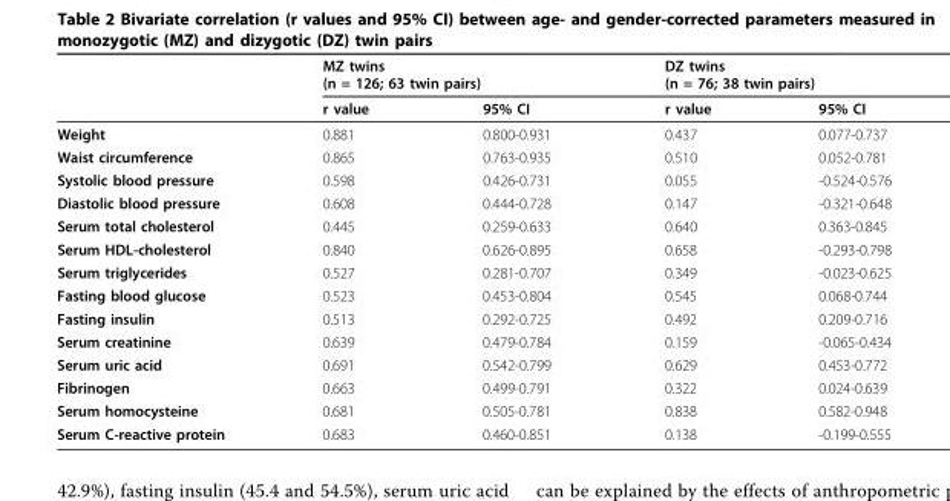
<table><thead><tr><td rowspan="2"></td><td colspan="2">MZ twins (n = 126; 63 twin pairs)</td><td colspan="2">DZ twins (n = 76; 38 twin pairs)</td></tr><tr><td>r value</td><td>95% CI</td><td>r value</td><td>95% CI</td></tr></thead><tbody><tr><td>Weight</td><td>0.881</td><td>0.800-0.931</td><td>0.437</td><td>0.077-0.737</td></tr><tr><td>Waist circumference</td><td>0.865</td><td>0.763-0.935</td><td>0.510</td><td>0.052-0.781</td></tr><tr><td>Systolic blood pressure</td><td>0.598</td><td>0.426-0.731</td><td>0.055</td><td>-0.524-0.576</td></tr><tr><td>Diastolic blood pressure</td><td>0.608</td><td>0.444-0.728</td><td>0.147</td><td>-0.321-0.648</td></tr><tr><td>Serum total cholesterol</td><td>0.445</td><td>0.259-0.633</td><td>0.640</td><td>0.363-0.845</td></tr><tr><td>Serum HDL-cholesterol</td><td>0.840</td><td>0.626-0.895</td><td>0.658</td><td>-0.293-0.798</td></tr><tr><td>Serum triglycerides</td><td>0.527</td><td>0.281-0.707</td><td>0.349</td><td>-0.023-0.625</td></tr><tr><td>Fasting blood glucose</td><td>0.523</td><td>0.453-0.804</td><td>0.545</td><td>0.068-0.744</td></tr><tr><td>Fasting insulin</td><td>0.513</td><td>0.292-0.725</td><td>0.492</td><td>0.209-0.716</td></tr><tr><td>Serum creatinine</td><td>0.639</td><td>0.479-0.784</td><td>0.159</td><td>-0.065-0.434</td></tr><tr><td>Serum uric acid</td><td>0.691</td><td>0.542-0.799</td><td>0.629</td><td>0.453-0.772</td></tr><tr><td>Fibrinogen</td><td>0.663</td><td>0.499-0.791</td><td>0.322</td><td>0.024-0.639</td></tr><tr><td>Serum homocysteine</td><td>0.681</td><td>0.505-0.781</td><td>0.838</td><td>0.582-0.948</td></tr><tr><td>Serum C-reactive protein</td><td>0.683</td><td>0.460-0.851</td><td>0.138</td><td>-0.199-0.555</td></tr></tbody></table>